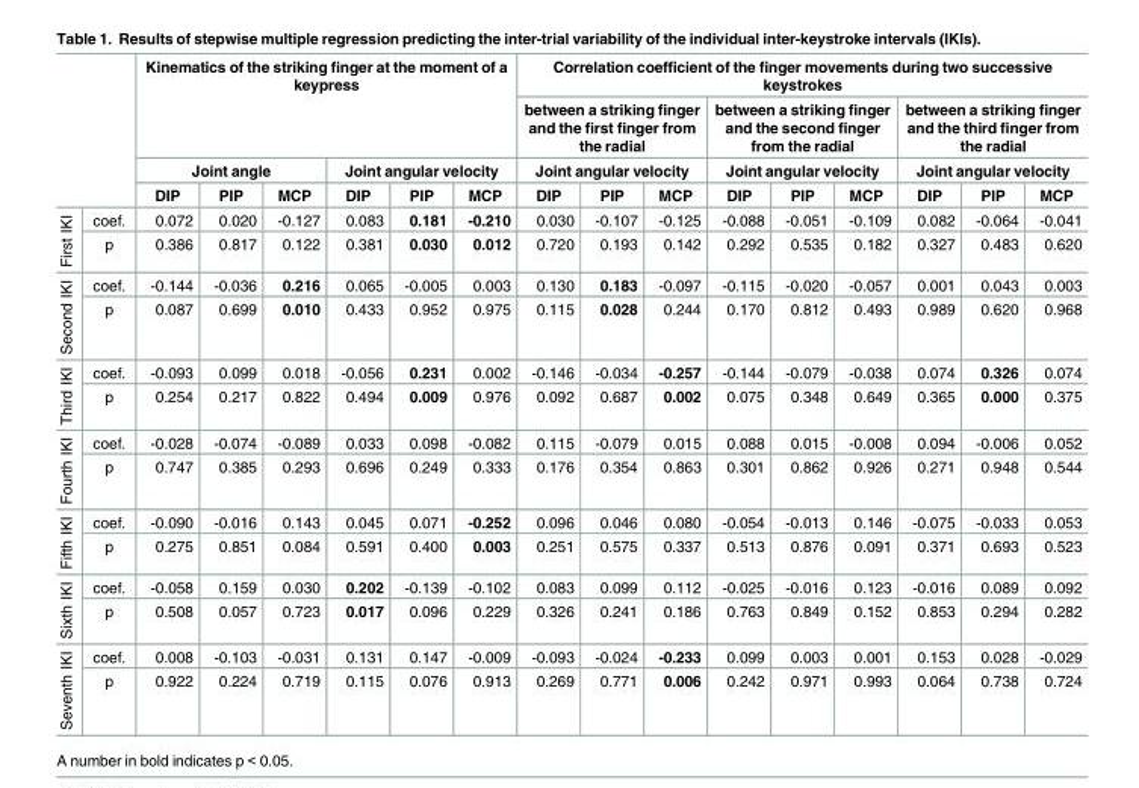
<table><thead><tr><td rowspan="4"></td><td rowspan="4"></td><td rowspan="2" colspan="6">Kinematics of the striking finger at the moment of a keypress</td><td colspan="9">Correlation coefficient of the finger movements during two successive keystrokes</td></tr><tr><td rowspan="2" colspan="3">between a striking finger and the first finger from the radial Joint angular velocity</td><td rowspan="2" colspan="3">between a striking finger and the second finger from the radial Joint angular velocity</td><td rowspan="2" colspan="3">between a striking finger and the third finger from the radial Joint angular velocity</td></tr><tr><td colspan="3">Joint angle</td><td colspan="3">Joint angular velocity</td></tr><tr><td>DIP</td><td>PIP</td><td>MCP</td><td>DIP</td><td>PIP</td><td>MCP</td><td>DIP</td><td>PIP</td><td>MCP</td><td>DIP</td><td>PIP</td><td>MCP</td><td>DIP</td><td>PIP</td><td>MCP</td></tr></thead><tbody><tr><td rowspan="2">First IKI</td><td>coef.</td><td>0.072</td><td>0.020</td><td>-0.127</td><td>0.083</td><td>0.181</td><td>-0.210</td><td>0.030</td><td>-0.107</td><td>-0.125</td><td>-0.088</td><td>-0.051</td><td>-0.109</td><td>0.082</td><td>-0.064</td><td>-0.041</td></tr><tr><td>p</td><td>0.386</td><td>0.817</td><td>0.122</td><td>0.381</td><td>0.030</td><td>0.012</td><td>0.720</td><td>0.193</td><td>0.142</td><td>0.292</td><td>0.535</td><td>0.182</td><td>0.327</td><td>0.483</td><td>0.620</td></tr><tr><td rowspan="2">Second IKI</td><td>coef.</td><td>-0.144</td><td>-0.036</td><td>0.216</td><td>0.065</td><td>-0.005</td><td>0.003</td><td>0.130</td><td>0.183</td><td>-0.097</td><td>-0.115</td><td>-0.020</td><td>-0.057</td><td>0.001</td><td>0.043</td><td>0.003</td></tr><tr><td>p</td><td>0.087</td><td>0.699</td><td>0.010</td><td>0.433</td><td>0.952</td><td>0.975</td><td>0.115</td><td>0.028</td><td>0.244</td><td>0.170</td><td>0.812</td><td>0.493</td><td>0.989</td><td>0.620</td><td>0.968</td></tr><tr><td rowspan="2">Third IKI</td><td>coef.</td><td>-0.093</td><td>0.099</td><td>0.018</td><td>-0.056</td><td>0.231</td><td>0.002</td><td>-0.146</td><td>-0.034</td><td>-0.257</td><td>-0.144</td><td>-0.079</td><td>-0.038</td><td>0.074</td><td>0.326</td><td>0.074</td></tr><tr><td>p</td><td>0.254</td><td>0.217</td><td>0.822</td><td>0.494</td><td>0.009</td><td>0.976</td><td>0.092</td><td>0.687</td><td>0.002</td><td>0.075</td><td>0.348</td><td>0.649</td><td>0.365</td><td>0.000</td><td>0.375</td></tr><tr><td rowspan="2">Fourth IKI</td><td>coef.</td><td>-0.028</td><td>-0.074</td><td>-0.089</td><td>0.033</td><td>0.098</td><td>-0.082</td><td>0.115</td><td>-0.079</td><td>0.015</td><td>0.088</td><td>0.015</td><td>-0.008</td><td>0.094</td><td>-0.006</td><td>0.052</td></tr><tr><td>p</td><td>0.747</td><td>0.385</td><td>0.293</td><td>0.696</td><td>0.249</td><td>0.333</td><td>0.176</td><td>0.354</td><td>0.863</td><td>0.301</td><td>0.862</td><td>0.926</td><td>0.271</td><td>0.948</td><td>0.544</td></tr><tr><td rowspan="2">Fifth IKI</td><td>coef.</td><td>-0.090</td><td>-0.016</td><td>0.143</td><td>0.045</td><td>0.071</td><td>-0.252</td><td>0.096</td><td>0.046</td><td>0.080</td><td>-0.054</td><td>-0.013</td><td>0.146</td><td>-0.075</td><td>-0.033</td><td>0.053</td></tr><tr><td>p</td><td>0.275</td><td>0.851</td><td>0.084</td><td>0.591</td><td>0.400</td><td>0.003</td><td>0.251</td><td>0.575</td><td>0.337</td><td>0.513</td><td>0.876</td><td>0.091</td><td>0.371</td><td>0.693</td><td>0.523</td></tr><tr><td rowspan="2">Sixth IKI</td><td>coef.</td><td>-0.058</td><td>0.159</td><td>0.030</td><td>0.202</td><td>-0.139</td><td>-0.102</td><td>0.083</td><td>0.099</td><td>0.112</td><td>-0.025</td><td>-0.016</td><td>0.123</td><td>-0.016</td><td>0.089</td><td>0.092</td></tr><tr><td>p</td><td>0.508</td><td>0.057</td><td>0.723</td><td>0.017</td><td>0.096</td><td>0.229</td><td>0.326</td><td>0.241</td><td>0.186</td><td>0.763</td><td>0.849</td><td>0.152</td><td>0.853</td><td>0.294</td><td>0.282</td></tr><tr><td rowspan="2">Seventh IKI</td><td>coef.</td><td>0.008</td><td>-0.103</td><td>-0.031</td><td>0.131</td><td>0.147</td><td>-0.009</td><td>-0.093</td><td>-0.024</td><td>-0.233</td><td>0.099</td><td>0.003</td><td>0.001</td><td>0.153</td><td>0.028</td><td>-0.029</td></tr><tr><td>p</td><td>0.922</td><td>0.224</td><td>0.719</td><td>0.115</td><td>0.076</td><td>0.913</td><td>0.269</td><td>0.771</td><td>0.006</td><td>0.242</td><td>0.971</td><td>0.993</td><td>0.064</td><td>0.738</td><td>0.724</td></tr></tbody></table>